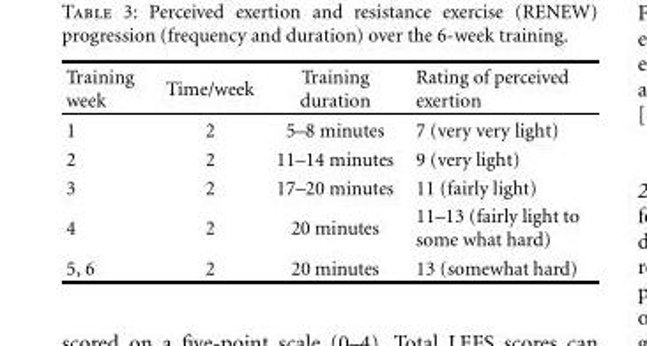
<table><thead><tr><td>Training week</td><td>Time/week</td><td>Training duration</td><td>Rating of perceived exertion</td></tr></thead><tbody><tr><td>1</td><td>2</td><td>5–8 minutes</td><td>7 (very very light)</td></tr><tr><td>2</td><td>2</td><td>11–14 minutes</td><td>9 (very light)</td></tr><tr><td>3</td><td>2</td><td>17–20 minutes</td><td>11 (fairly light)</td></tr><tr><td>4</td><td>2</td><td>20 minutes</td><td>11–13 (fairly light to some what hard)</td></tr><tr><td>5, 6</td><td>2</td><td>20 minutes</td><td>13 (somewhat hard)</td></tr></tbody></table>